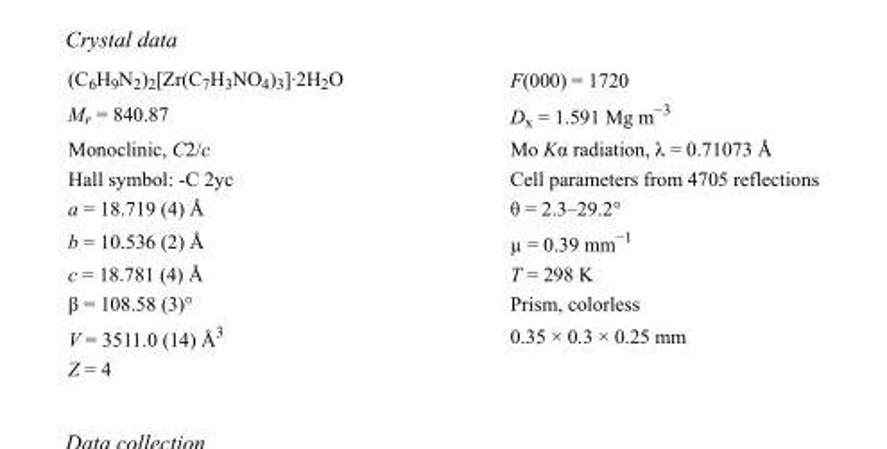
<table><tbody><tr><td>(C<sub>6</sub>H<sub>9</sub>N<sub>2</sub>)<sub>2</sub>[Zr(C<sub>7</sub>H<sub>3</sub>NO<sub>4</sub>)<sub>3</sub>]·2H<sub>2</sub>O</td><td>F(000) = 1720</td></tr><tr><td>M<sub>r</sub> = 840.87</td><td>D<sub>x</sub> = 1.591 Mg m<sup>−3</sup></td></tr><tr><td>Monoclinic, C2/c</td><td>Mo Kα radiation, λ = 0.71073 Å</td></tr><tr><td>Hall symbol: -C 2yc</td><td>Cell parameters from 4705 reflections</td></tr><tr><td>a = 18.719 (4) Å</td><td>θ = 2.3–29.2°</td></tr><tr><td>b = 10.536 (2) Å</td><td>µ = 0.39 mm<sup>−1</sup></td></tr><tr><td>c = 18.781 (4) Å</td><td>T = 298 K</td></tr><tr><td>β = 108.58 (3)°</td><td>Prism, colorless</td></tr><tr><td>V = 3511.0 (14) Å<sup>3</sup></td><td>0.35 × 0.3 × 0.25 mm</td></tr><tr><td>Z = 4</td><td></td></tr></tbody></table>